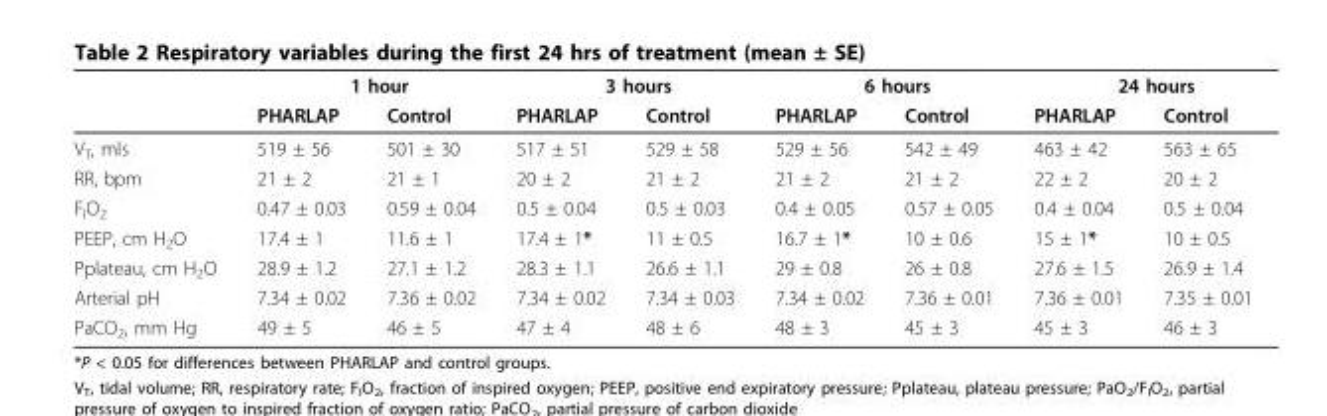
<table><thead><tr><td rowspan="2"></td><td colspan="2">1 hour</td><td colspan="2">3 hours</td><td colspan="2">6 hours</td><td colspan="2">24 hours</td></tr><tr><td>PHARLAP</td><td>Control</td><td>PHARLAP</td><td>Control</td><td>PHARLAP</td><td>Control</td><td>PHARLAP</td><td>Control</td></tr></thead><tbody><tr><td>V<sub>T</sub>, mls</td><td>519 ± 56</td><td>501 ± 30</td><td>517 ± 51</td><td>529 ± 58</td><td>529 ± 56</td><td>542 ± 49</td><td>463 ± 42</td><td>563 ± 65</td></tr><tr><td>RR, bpm</td><td>21 ± 2</td><td>21 ± 1</td><td>20 ± 2</td><td>21 ± 2</td><td>21 ± 2</td><td>21 ± 2</td><td>22 ± 2</td><td>20 ± 2</td></tr><tr><td>F<sub>I</sub>O<sub>2</sub></td><td>0.47 ± 0.03</td><td>0.59 ± 0.04</td><td>0.5 ± 0.04</td><td>0.5 ± 0.03</td><td>0.4 ± 0.05</td><td>0.57 ± 0.05</td><td>0.4 ± 0.04</td><td>0.5 ± 0.04</td></tr><tr><td>PEEP, cm H<sub>2</sub>O</td><td>17.4 ± 1</td><td>11.6 ± 1</td><td>17.4 ± 1*</td><td>11 ± 0.5</td><td>16.7 ± 1*</td><td>10 ± 0.6</td><td>15 ± 1*</td><td>10 ± 0.5</td></tr><tr><td>Pplateau, cm H<sub>2</sub>O</td><td>28.9 ± 1.2</td><td>27.1 ± 1.2</td><td>28.3 ± 1.1</td><td>26.6 ± 1.1</td><td>29 ± 0.8</td><td>26 ± 0.8</td><td>27.6 ± 1.5</td><td>26.9 ± 1.4</td></tr><tr><td>Arterial pH</td><td>7.34 ± 0.02</td><td>7.36 ± 0.02</td><td>7.34 ± 0.02</td><td>7.34 ± 0.03</td><td>7.34 ± 0.02</td><td>7.36 ± 0.01</td><td>7.36 ± 0.01</td><td>7.35 ± 0.01</td></tr><tr><td>PaCO<sub>2</sub>, mm Hg</td><td>49 ± 5</td><td>46 ± 5</td><td>47 ± 4</td><td>48 ± 6</td><td>48 ± 3</td><td>45 ± 3</td><td>45 ± 3</td><td>46 ± 3</td></tr></tbody></table>